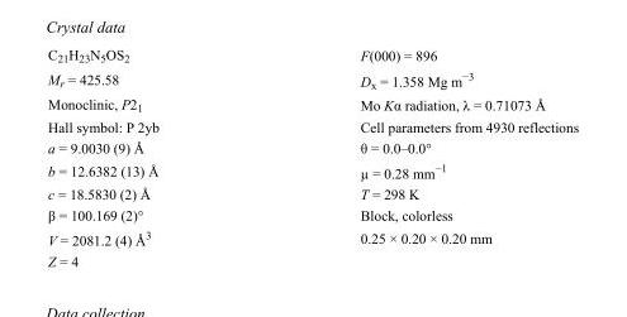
<table><tbody><tr><td>C<sub>21</sub>H<sub>23</sub>N<sub>5</sub>OS<sub>2</sub></td><td>F(000) = 896</td></tr><tr><td>M<sub>r</sub> = 425.58</td><td>D<sub>x</sub> = 1.358 Mg m<sup>−3</sup></td></tr><tr><td>Monoclinic, P2<sub>1</sub></td><td>Mo Kα radiation, λ = 0.71073 Å</td></tr><tr><td>Hall symbol: P 2yb</td><td>Cell parameters from 4930 reflections</td></tr><tr><td>a = 9.0030 (9) Å</td><td>θ = 0.0–0.0°</td></tr><tr><td>b = 12.6382 (13) Å</td><td>µ = 0.28 mm<sup>−1</sup></td></tr><tr><td>c = 18.5830 (2) Å</td><td>T = 298 K</td></tr><tr><td>β = 100.169 (2)°</td><td>Block, colorless</td></tr><tr><td>V = 2081.2 (4) Å<sup>3</sup></td><td>0.25 × 0.20 × 0.20 mm</td></tr><tr><td>Z = 4</td><td></td></tr></tbody></table>